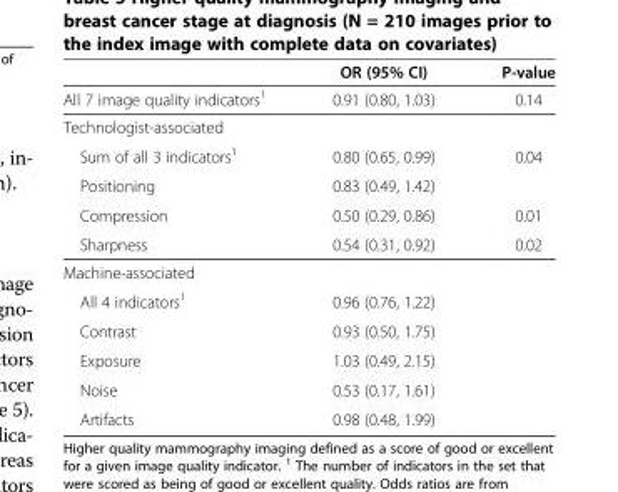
<table><thead><tr><td></td><td>OR (95% CI)</td><td>P-value</td></tr></thead><tbody><tr><td>All 7 image quality indicators<sup>1</sup></td><td>0.91 (0.80, 1.03)</td><td>0.14</td></tr><tr><td colspan="3">Technologist-associated</td></tr><tr><td>Sum of all 3 indicators<sup>1</sup></td><td>0.80 (0.65, 0.99)</td><td>0.04</td></tr><tr><td>Positioning</td><td>0.83 (0.49, 1.42)</td><td></td></tr><tr><td>Compression</td><td>0.50 (0.29, 0.86)</td><td>0.01</td></tr><tr><td>Sharpness</td><td>0.54 (0.31, 0.92)</td><td>0.02</td></tr><tr><td colspan="3">Machine-associated</td></tr><tr><td>All 4 indicators<sup>1</sup></td><td>0.96 (0.76, 1.22)</td><td></td></tr><tr><td>Contrast</td><td>0.93 (0.50, 1.75)</td><td></td></tr><tr><td>Exposure</td><td>1.03 (0.49, 2.15)</td><td></td></tr><tr><td>Noise</td><td>0.53 (0.17, 1.61)</td><td></td></tr><tr><td>Artifacts</td><td>0.98 (0.48, 1.99)</td><td></td></tr></tbody></table>